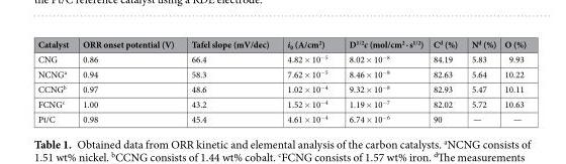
<table><thead><tr><td>Catalyst</td><td>ORR onset potential (V)</td><td>Tafel slope (mV/dec)</td><td>i<sub>0</sub> (A/cm<sup>2</sup>)</td><td>D<sup>1/2</sup>c (mol/cm<sup>2</sup> · s<sup>1/2</sup>)</td><td>C<sup>d</sup> (%)</td><td>N<sup>d</sup> (%)</td><td>O (%)</td></tr></thead><tbody><tr><td>CNG</td><td>0.86</td><td>66.4</td><td>4.82 × 10<sup>−5</sup></td><td>8.02 × 10<sup>−8</sup></td><td>84.19</td><td>5.83</td><td>9.93</td></tr><tr><td>NCNG<sup>a</sup></td><td>0.94</td><td>58.3</td><td>7.62 × 10<sup>−5</sup></td><td>8.46 × 10<sup>−8</sup></td><td>82.63</td><td>5.64</td><td>10.22</td></tr><tr><td>CCNG<sup>b</sup></td><td>0.97</td><td>48.6</td><td>1.02 × 10<sup>−4</sup></td><td>9.32 × 10<sup>−8</sup></td><td>82.93</td><td>5.47</td><td>10.11</td></tr><tr><td>FCNG<sup>c</sup></td><td>1.00</td><td>43.2</td><td>1.52 × 10<sup>−4</sup></td><td>1.19 × 10<sup>−7</sup></td><td>82.02</td><td>5.72</td><td>10.63</td></tr><tr><td>Pt/C</td><td>0.98</td><td>45.4</td><td>4.61 × 10<sup>−4</sup></td><td>6.74 × 10<sup>−6</sup></td><td>90</td><td>—</td><td>—</td></tr></tbody></table>